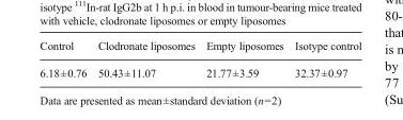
<table><thead><tr><td>Control</td><td>Clodronate liposomes</td><td>Empty liposomes</td><td>Isotype control</td></tr></thead><tbody><tr><td>6.18±0.76</td><td>50.43±11.07</td><td>21.77±3.59</td><td>32.37±0.97</td></tr></tbody></table>